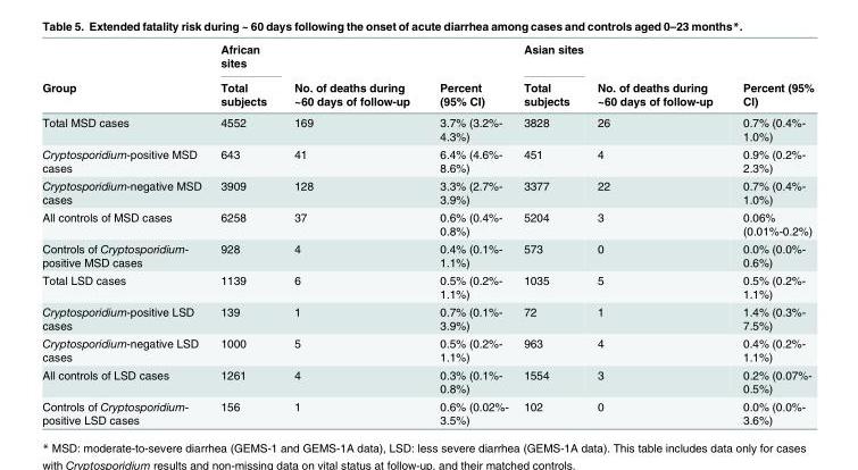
<table><thead><tr><td rowspan="2">Group</td><td rowspan="2">African sites Total subjects</td><td rowspan="2">No. of deaths during ~60 days of follow-up</td><td rowspan="2">Percent (95% CI)</td><td rowspan="2">Asian sites Total subjects</td><td rowspan="2">No. of deaths during ~60 days of follow-up</td><td rowspan="2">Percent (95% CI)</td></tr><tr></tr></thead><tbody><tr><td>Total MSD cases</td><td>4552</td><td>169</td><td>3.7% (3.2%- 4.3%)</td><td>3828</td><td>26</td><td>0.7% (0.4%- 1.0%)</td></tr><tr><td>Cryptosporidium-positive MSD cases</td><td>643</td><td>41</td><td>6.4% (4.6%- 8.6%)</td><td>451</td><td>4</td><td>0.9% (0.2%- 2.3%)</td></tr><tr><td>Cryptosporidium-negative MSD cases</td><td>3909</td><td>128</td><td>3.3% (2.7%- 3.9%)</td><td>3377</td><td>22</td><td>0.7% (0.4%- 1.0%)</td></tr><tr><td>All controls of MSD cases</td><td>6258</td><td>37</td><td>0.6% (0.4%- 0.8%)</td><td>5204</td><td>3</td><td>0.06% (0.01%-0.2%)</td></tr><tr><td>Controls of Cryptosporidium- positive MSD cases</td><td>928</td><td>4</td><td>0.4% (0.1%- 1.1%)</td><td>573</td><td>0</td><td>0.0% (0.0%- 0.6%)</td></tr><tr><td>Total LSD cases</td><td>1139</td><td>6</td><td>0.5% (0.2%- 1.1%)</td><td>1035</td><td>5</td><td>0.5% (0.2%- 1.1%)</td></tr><tr><td>Cryptosporidium-positive LSD cases</td><td>139</td><td>1</td><td>0.7% (0.1%- 3.9%)</td><td>72</td><td>1</td><td>1.4% (0.3%- 7.5%)</td></tr><tr><td>Cryptosporidium-negative LSD cases</td><td>1000</td><td>5</td><td>0.5% (0.2%- 1.1%)</td><td>963</td><td>4</td><td>0.4% (0.2%- 1.1%)</td></tr><tr><td>All controls of LSD cases</td><td>1261</td><td>4</td><td>0.3% (0.1%- 0.8%)</td><td>1554</td><td>3</td><td>0.2% (0.07%- 0.5%)</td></tr><tr><td>Controls of Cryptosporidium- positive LSD cases</td><td>156</td><td>1</td><td>0.6% (0.02%- 3.5%)</td><td>102</td><td>0</td><td>0.0% (0.0%- 3.6%)</td></tr></tbody></table>